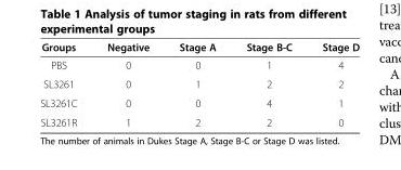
<table><thead><tr><td>Groups</td><td>Negative</td><td>Stage A</td><td>Stage B-C</td><td>Stage D</td></tr></thead><tbody><tr><td>PBS</td><td>0</td><td>0</td><td>1</td><td>4</td></tr><tr><td>SL3261</td><td>0</td><td>1</td><td>2</td><td>2</td></tr><tr><td>SL3261C</td><td>0</td><td>0</td><td>4</td><td>1</td></tr><tr><td>SL3261R</td><td>1</td><td>2</td><td>2</td><td>0</td></tr></tbody></table>